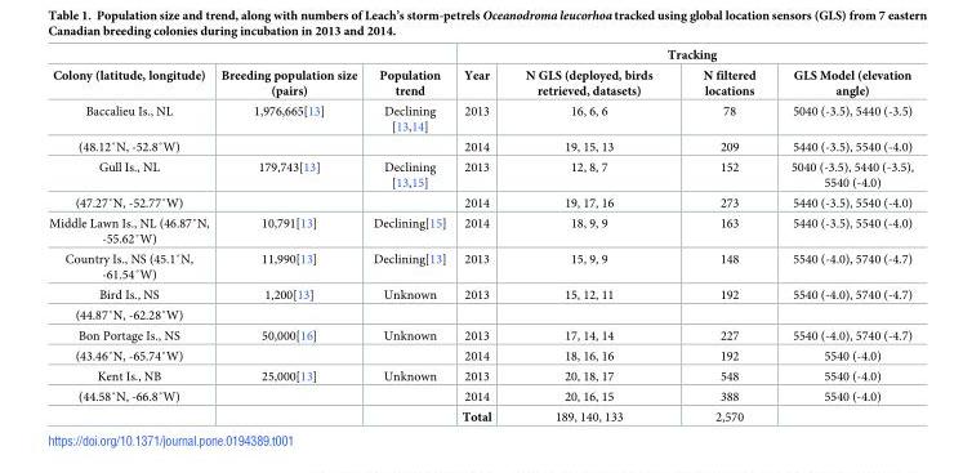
<table><thead><tr><td rowspan="2">Colony (latitude, longitude)</td><td rowspan="2">Breeding population size (pairs)</td><td rowspan="2">Population trend</td><td colspan="4">Tracking</td></tr><tr><td>Year</td><td>N GLS (deployed, birds retrieved, datasets)</td><td>N filtered locations</td><td>GLS Model (elevation angle)</td></tr></thead><tbody><tr><td>Baccalieu Is., NL</td><td>1,976,665[13]</td><td>Declining [13,14]</td><td>2013</td><td>16, 6, 6</td><td>78</td><td>5040 (-3.5), 5440 (-3.5)</td></tr><tr><td>(48.12˚N, -52.8˚W)</td><td></td><td></td><td>2014</td><td>19, 15, 13</td><td>209</td><td>5440 (-3.5), 5540 (-4.0)</td></tr><tr><td>Gull Is., NL</td><td>179,743[13]</td><td>Declining [13,15]</td><td>2013</td><td>12, 8, 7</td><td>152</td><td>5040 (-3.5), 5440 (-3.5), 5540 (-4.0)</td></tr><tr><td>(47.27˚N, -52.77˚W)</td><td></td><td></td><td>2014</td><td>19, 17, 16</td><td>273</td><td>5440 (-3.5), 5540 (-4.0)</td></tr><tr><td>Middle Lawn Is., NL (46.87˚N, -55.62˚W)</td><td>10,791[13]</td><td>Declining[15]</td><td>2014</td><td>18, 9, 9</td><td>163</td><td>5440 (-3.5), 5540 (-4.0)</td></tr><tr><td>Country Is., NS (45.1˚N, -61.54˚W)</td><td>11,990[13]</td><td>Declining[13]</td><td>2013</td><td>15, 9, 9</td><td>148</td><td>5540 (-4.0), 5740 (-4.7)</td></tr><tr><td>Bird Is., NS</td><td>1,200[13]</td><td>Unknown</td><td>2013</td><td>15, 12, 11</td><td>192</td><td>5540 (-4.0), 5740 (-4.7)</td></tr><tr><td colspan="7">(44.87˚N, -62.28˚W)</td></tr><tr><td>Bon Portage Is., NS</td><td>50,000[16]</td><td>Unknown</td><td>2013</td><td>17, 14, 14</td><td>227</td><td>5540 (-4.0), 5740 (-4.7)</td></tr><tr><td>(43.46˚N, -65.74˚W)</td><td></td><td></td><td>2014</td><td>18, 16, 16</td><td>192</td><td>5540 (-4.0)</td></tr><tr><td>Kent Is., NB</td><td>25,000[13]</td><td>Unknown</td><td>2013</td><td>20, 18, 17</td><td>548</td><td>5540 (-4.0)</td></tr><tr><td rowspan="2">(44.58˚N, -66.8˚W)</td><td></td><td></td><td>2014</td><td>20, 16, 15</td><td>388</td><td>5540 (-4.0)</td></tr><tr><td></td><td></td><td>Total</td><td>189, 140, 133</td><td>2,570</td><td></td></tr></tbody></table>